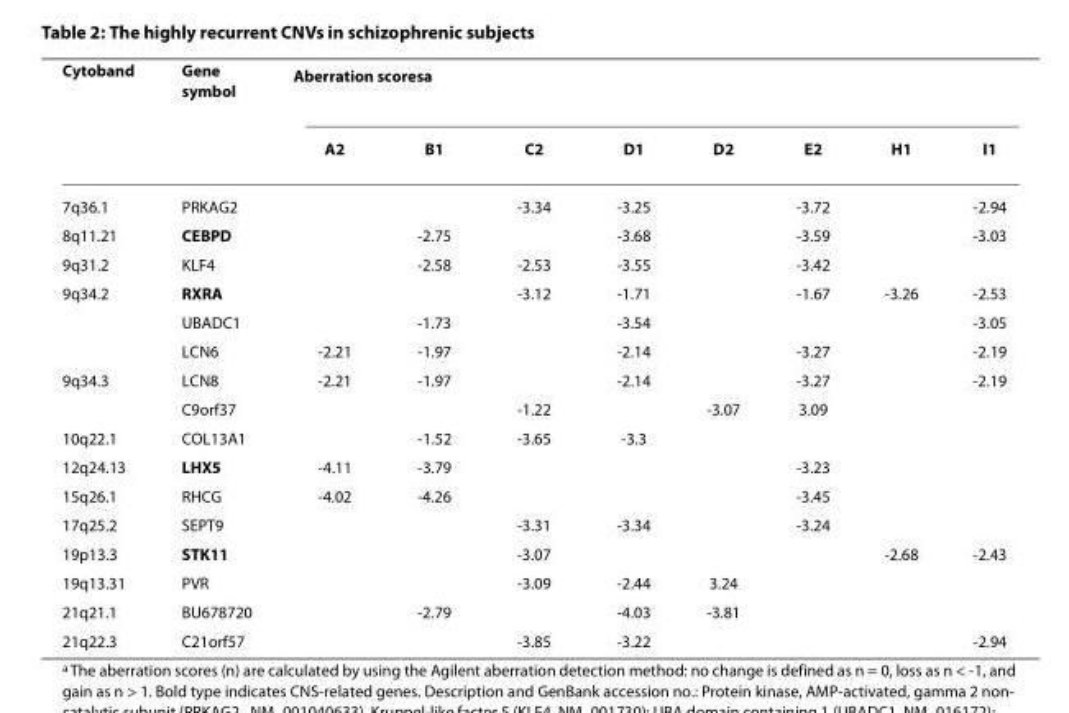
<table><thead><tr><td rowspan="2">Cytoband</td><td rowspan="2">Gene symbol</td><td colspan="8">Aberration scores<sup>a</sup></td></tr><tr><td>A2</td><td>B1</td><td>C2</td><td>D1</td><td>D2</td><td>E2</td><td>H1</td><td>I1</td></tr></thead><tbody><tr><td>7q36.1</td><td>PRKAG2</td><td></td><td></td><td>-3.34</td><td>-3.25</td><td></td><td>-3.72</td><td></td><td>-2.94</td></tr><tr><td>8q11.21</td><td>CEBPD</td><td></td><td>-2.75</td><td></td><td>-3.68</td><td></td><td>-3.59</td><td></td><td>-3.03</td></tr><tr><td>9q31.2</td><td>KLF4</td><td></td><td>-2.58</td><td>-2.53</td><td>-3.55</td><td></td><td>-3.42</td><td></td><td></td></tr><tr><td rowspan="3">9q34.2</td><td>RXRA</td><td></td><td></td><td>-3.12</td><td>-1.71</td><td></td><td>-1.67</td><td>-3.26</td><td>-2.53</td></tr><tr><td>UBADC1</td><td></td><td>-1.73</td><td></td><td>-3.54</td><td></td><td></td><td></td><td>-3.05</td></tr><tr><td>LCN6</td><td>-2.21</td><td>-1.97</td><td></td><td>-2.14</td><td></td><td>-3.27</td><td></td><td>-2.19</td></tr><tr><td rowspan="2">9q34.3</td><td>LCN8</td><td>-2.21</td><td>-1.97</td><td></td><td>-2.14</td><td></td><td>-3.27</td><td></td><td>-2.19</td></tr><tr><td>C9orf37</td><td></td><td></td><td>-1.22</td><td></td><td>-3.07</td><td>3.09</td><td></td><td></td></tr><tr><td>10q22.1</td><td>COL13A1</td><td></td><td>-1.52</td><td>-3.65</td><td>-3.3</td><td></td><td></td><td></td><td></td></tr><tr><td>12q24.13</td><td>LHX5</td><td>-4.11</td><td>-3.79</td><td></td><td></td><td></td><td>-3.23</td><td></td><td></td></tr><tr><td>15q26.1</td><td>RHCG</td><td>-4.02</td><td>-4.26</td><td></td><td></td><td></td><td>-3.45</td><td></td><td></td></tr><tr><td>17q25.2</td><td>SEPT9</td><td></td><td></td><td>-3.31</td><td>-3.34</td><td></td><td>-3.24</td><td></td><td></td></tr><tr><td>19p13.3</td><td>STK11</td><td></td><td></td><td>-3.07</td><td></td><td></td><td></td><td>-2.68</td><td>-2.43</td></tr><tr><td>19q13.31</td><td>PVR</td><td></td><td></td><td>-3.09</td><td>-2.44</td><td>3.24</td><td></td><td></td><td></td></tr><tr><td>21q21.1</td><td>BU678720</td><td></td><td>-2.79</td><td></td><td>-4.03</td><td>-3.81</td><td></td><td></td><td></td></tr><tr><td>21q22.3</td><td>C21orf57</td><td></td><td></td><td>-3.85</td><td>-3.22</td><td></td><td></td><td></td><td>-2.94</td></tr></tbody></table>